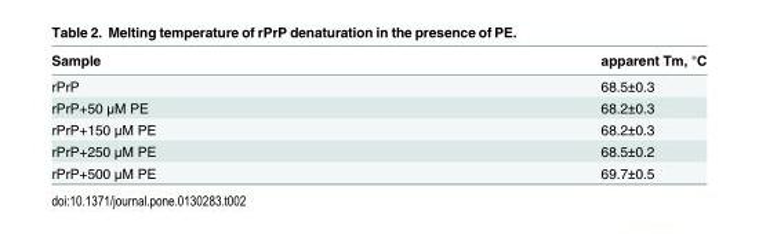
<table><thead><tr><td>Sample</td><td>apparent Tm, °C</td></tr></thead><tbody><tr><td>rPrP</td><td>68.5±0.3</td></tr><tr><td>rPrP+50 μM PE</td><td>68.2±0.3</td></tr><tr><td>rPrP+150 μM PE</td><td>68.2±0.3</td></tr><tr><td>rPrP+250 μM PE</td><td>68.5±0.2</td></tr><tr><td>rPrP+500 μM PE</td><td>69.7±0.5</td></tr></tbody></table>